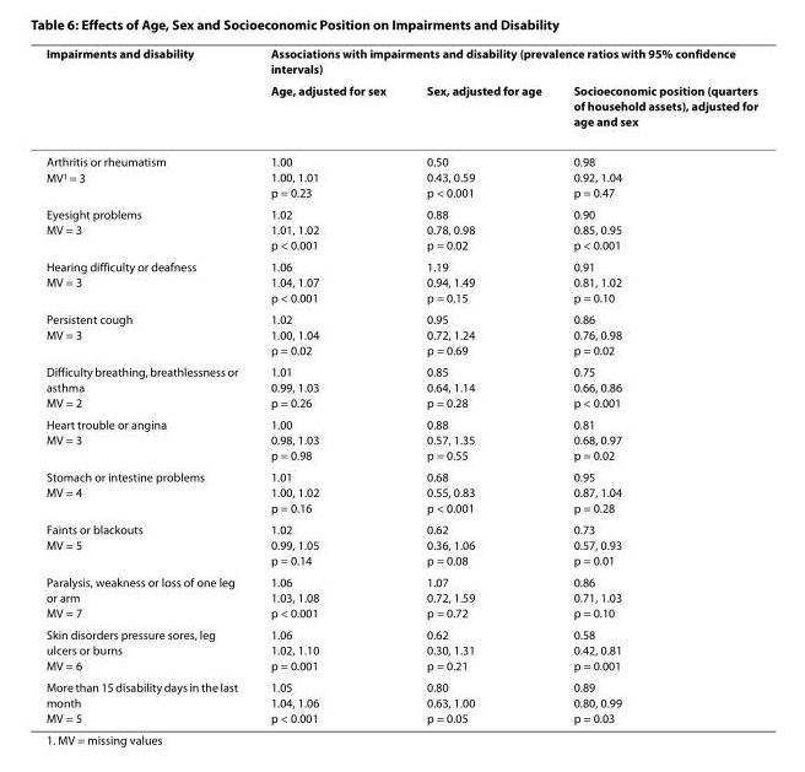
<table><thead><tr><td rowspan="2">Impairments and disability</td><td colspan="3">Associations with impairments and disability (prevalence ratios with 95% confidence intervals)</td></tr><tr><td>Age, adjusted for sex</td><td>Sex, adjusted for age</td><td>Socioeconomic position (quarters of household assets), adjusted for age and sex</td></tr></thead><tbody><tr><td>Arthritis or rheumatism MV<sup>1</sup> = 3</td><td>1.00 1.00, 1.01 p = 0.23</td><td>0.50 0.43, 0.59 p &lt; 0.001</td><td>0.98 0.92, 1.04 p = 0.47</td></tr><tr><td>Eyesight problems MV = 3</td><td>1.02 1.01, 1.02 p &lt; 0.001</td><td>0.88 0.78, 0.98 p = 0.02</td><td>0.90 0.85, 0.95 p &lt; 0.001</td></tr><tr><td>Hearing difficulty or deafness MV = 3</td><td>1.06 1.04, 1.07 p &lt; 0.001</td><td>1.19 0.94, 1.49 p = 0.15</td><td>0.91 0.81, 1.02 p = 0.10</td></tr><tr><td>Persistent cough MV = 3</td><td>1.02 1.00, 1.04 p = 0.02</td><td>0.95 0.72, 1.24 p = 0.69</td><td>0.86 0.76, 0.98 p = 0.02</td></tr><tr><td>Difficulty breathing, breathlessness or asthma MV = 2</td><td>1.01 0.99, 1.03 p = 0.26</td><td>0.85 0.64, 1.14 p = 0.28</td><td>0.75 0.66, 0.86 p &lt; 0.001</td></tr><tr><td>Heart trouble or angina MV = 3</td><td>1.00 0.98, 1.03 p = 0.98</td><td>0.88 0.57, 1.35 p = 0.55</td><td>0.81 0.68, 0.97 p = 0.02</td></tr><tr><td>Stomach or intestine problems MV = 4</td><td>1.01 1.00, 1.02 p = 0.16</td><td>0.68 0.55, 0.83 p &lt; 0.001</td><td>0.95 0.87, 1.04 p = 0.28</td></tr><tr><td>Faints or blackouts MV = 5</td><td>1.02 0.99, 1.05 p = 0.14</td><td>0.62 0.36, 1.06 p = 0.08</td><td>0.73 0.57, 0.93 p = 0.01</td></tr><tr><td>Paralysis, weakness or loss of one leg or arm MV = 7</td><td>1.06 1.03, 1.08 p &lt; 0.001</td><td>1.07 0.72, 1.59 p = 0.72</td><td>0.86 0.71, 1.03 p = 0.10</td></tr><tr><td>Skin disorders pressure sores, leg ulcers or burns MV = 6</td><td>1.06 1.02, 1.10 p = 0.001</td><td>0.62 0.30, 1.31 p = 0.21</td><td>0.58 0.42, 0.81 p = 0.001</td></tr><tr><td>More than 15 disability days in the last month MV = 5</td><td>1.05 1.04, 1.06 p &lt; 0.001</td><td>0.80 0.63, 1.00 p = 0.05</td><td>0.89 0.80, 0.99 p = 0.03</td></tr></tbody></table>